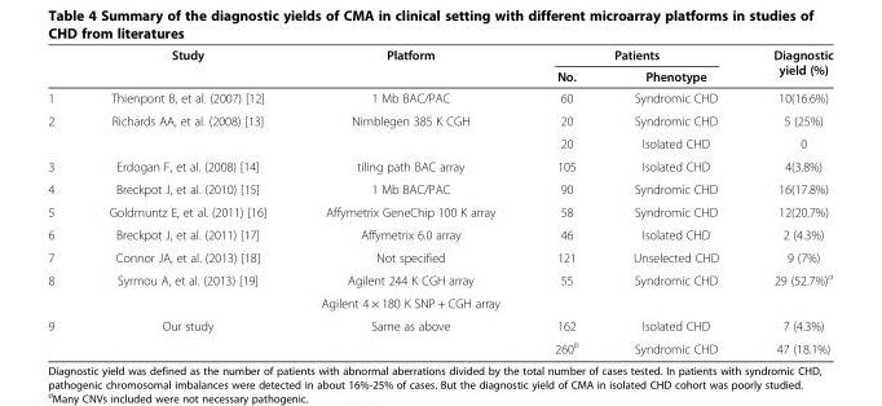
<table><thead><tr><td rowspan="2"></td><td rowspan="2">Study</td><td rowspan="2">Platform</td><td colspan="2">Patients</td><td rowspan="2">Diagnostic yield (%)</td></tr><tr><td>No.</td><td>Phenotype</td></tr></thead><tbody><tr><td>1</td><td>Thienpont B, et al. (2007) [12]</td><td>1 Mb BAC/PAC</td><td>60</td><td>Syndromic CHD</td><td>10(16.6%)</td></tr><tr><td rowspan="2">2</td><td rowspan="2">Richards AA, et al. (2008) [13]</td><td rowspan="2">Nimblegen 385 K CGH</td><td>20</td><td>Syndromic CHD</td><td>5 (25%)</td></tr><tr><td>20</td><td>Isolated CHD</td><td>0</td></tr><tr><td>3</td><td>Erdogan F, et al. (2008) [14]</td><td>tiling path BAC array</td><td>105</td><td>Isolated CHD</td><td>4(3.8%)</td></tr><tr><td>4</td><td>Breckpot J, et al. (2010) [15]</td><td>1 Mb BAC/PAC</td><td>90</td><td>Syndromic CHD</td><td>16(17.8%)</td></tr><tr><td>5</td><td>Goldmuntz E, et al. (2011) [16]</td><td>Affymetrix GeneChip 100 K array</td><td>58</td><td>Syndromic CHD</td><td>12(20.7%)</td></tr><tr><td>6</td><td>Breckpot J, et al. (2011) [17]</td><td>Affymetrix 6.0 array</td><td>46</td><td>Isolated CHD</td><td>2 (4.3%)</td></tr><tr><td>7</td><td>Connor JA, et al. (2013) [18]</td><td>Not specified</td><td>121</td><td>Unselected CHD</td><td>9 (7%)</td></tr><tr><td rowspan="2">8</td><td rowspan="2">Syrmou A, et al. (2013) [19]</td><td>Agilent 244 K CGH array</td><td rowspan="2">55</td><td rowspan="2">Syndromic CHD</td><td rowspan="2">29 (52.7%)<sup>a</sup></td></tr><tr><td>Agilent 4 × 180 K SNP + CGH array</td></tr><tr><td rowspan="2">9</td><td rowspan="2">Our study</td><td rowspan="2">Same as above</td><td>162</td><td>Isolated CHD</td><td>7 (4.3%)</td></tr><tr><td>260<sup>b</sup></td><td>Syndromic CHD</td><td>47 (18.1%)</td></tr></tbody></table>